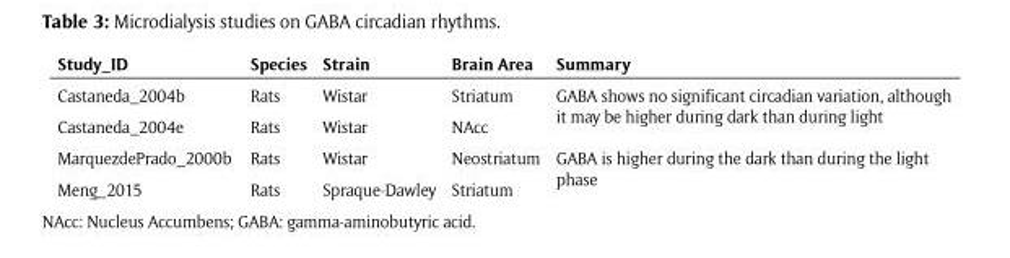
<table><thead><tr><td>Study_ID</td><td>Species</td><td>Strain</td><td>Brain Area</td><td>Summary</td></tr></thead><tbody><tr><td>Castaneda_2004b</td><td>Rats</td><td>Wistar</td><td>Striatum</td><td rowspan="2">GABA shows no significant circadian variation, although it may be higher during dark than during light</td></tr><tr><td>Castaneda_2004e</td><td>Rats</td><td>Wistar</td><td>NAcc</td></tr><tr><td>MarquezdePrado_2000b</td><td>Rats</td><td>Wistar</td><td>Neostriatum</td><td rowspan="2">GABA is higher during the dark than during the light phase</td></tr><tr><td>Meng_2015</td><td>Rats</td><td>Spraque-Dawley</td><td>Striatum</td></tr></tbody></table>